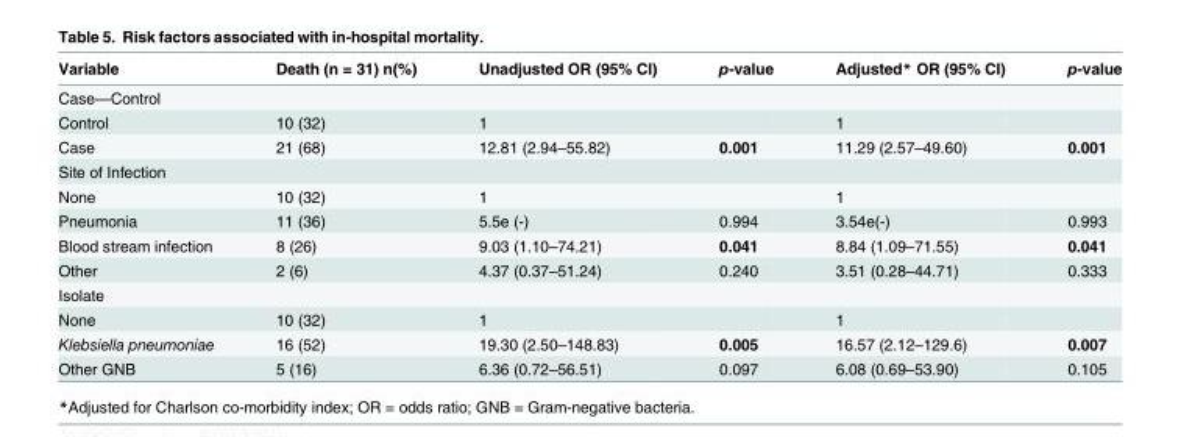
<table><thead><tr><td>Variable</td><td>Death (n = 31) n(%)</td><td>Unadjusted OR (95% CI)</td><td>p-value</td><td>Adjusted* OR (95% CI)</td><td>p-value</td></tr></thead><tbody><tr><td colspan="6">Case—Control</td></tr><tr><td>Control</td><td>10 (32)</td><td>1</td><td></td><td>1</td><td></td></tr><tr><td>Case</td><td>21 (68)</td><td>12.81 (2.94–55.82)</td><td>0.001</td><td>11.29 (2.57–49.60)</td><td>0.001</td></tr><tr><td colspan="6">Site of Infection</td></tr><tr><td>None</td><td>10 (32)</td><td>1</td><td></td><td>1</td><td></td></tr><tr><td>Pneumonia</td><td>11 (36)</td><td>5.5e (-)</td><td>0.994</td><td>3.54e(-)</td><td>0.993</td></tr><tr><td>Blood stream infection</td><td>8 (26)</td><td>9.03 (1.10–74.21)</td><td>0.041</td><td>8.84 (1.09–71.55)</td><td>0.041</td></tr><tr><td>Other</td><td>2 (6)</td><td>4.37 (0.37–51.24)</td><td>0.240</td><td>3.51 (0.28–44.71)</td><td>0.333</td></tr><tr><td colspan="6">Isolate</td></tr><tr><td>None</td><td>10 (32)</td><td>1</td><td></td><td>1</td><td></td></tr><tr><td>Klebsiella pneumoniae</td><td>16 (52)</td><td>19.30 (2.50–148.83)</td><td>0.005</td><td>16.57 (2.12–129.6)</td><td>0.007</td></tr><tr><td>Other GNB</td><td>5 (16)</td><td>6.36 (0.72–56.51)</td><td>0.097</td><td>6.08 (0.69–53.90)</td><td>0.105</td></tr></tbody></table>